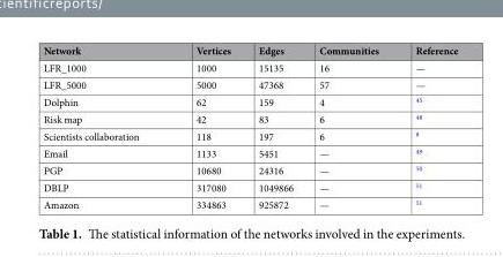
<table><thead><tr><td>Network</td><td>Vertices</td><td>Edges</td><td>Communities</td><td>Reference</td></tr></thead><tbody><tr><td>LFR_1000</td><td>1000</td><td>15135</td><td>16</td><td>—</td></tr><tr><td>LFR_5000</td><td>5000</td><td>47368</td><td>57</td><td>—</td></tr><tr><td>Dolphin</td><td>62</td><td>159</td><td>4</td><td><sup>45</sup></td></tr><tr><td>Risk map</td><td>42</td><td>83</td><td>6</td><td><sup>48</sup></td></tr><tr><td>Scientists collaboration</td><td>118</td><td>197</td><td>6</td><td><sup>8</sup></td></tr><tr><td>Email</td><td>1133</td><td>5451</td><td>—</td><td><sup>49</sup></td></tr><tr><td>PGP</td><td>10680</td><td>24316</td><td>—</td><td><sup>50</sup></td></tr><tr><td>DBLP</td><td>317080</td><td>1049866</td><td>—</td><td><sup>51</sup></td></tr><tr><td>Amazon</td><td>334863</td><td>925872</td><td>—</td><td><sup>51</sup></td></tr></tbody></table>